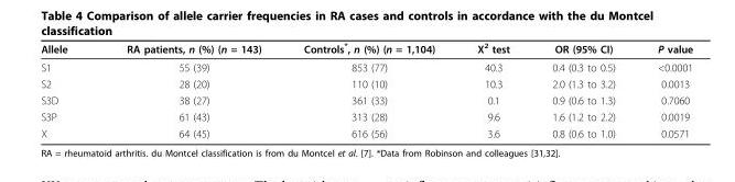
<table><thead><tr><td>Allele</td><td>RA patients, n (%) (n = 143)</td><td>Controls*, n (%) (n = 1,104)</td><td>Χ<sup>2</sup> test</td><td>OR (95% CI)</td><td>P value</td></tr></thead><tbody><tr><td>S1</td><td>55 (39)</td><td>853 (77)</td><td>40.3</td><td>0.4 (0.3 to 0.5)</td><td>&lt;0.0001</td></tr><tr><td>S2</td><td>28 (20)</td><td>110 (10)</td><td>10.3</td><td>2.0 (1.3 to 3.2)</td><td>0.0013</td></tr><tr><td>S3D</td><td>38 (27)</td><td>361 (33)</td><td>0.1</td><td>0.9 (0.6 to 1.3)</td><td>0.7060</td></tr><tr><td>S3P</td><td>61 (43)</td><td>313 (28)</td><td>9.6</td><td>1.6 (1.2 to 2.2)</td><td>0.0019</td></tr><tr><td>X</td><td>64 (45)</td><td>616 (56)</td><td>3.6</td><td>0.8 (0.6 to 1.0)</td><td>0.0571</td></tr></tbody></table>